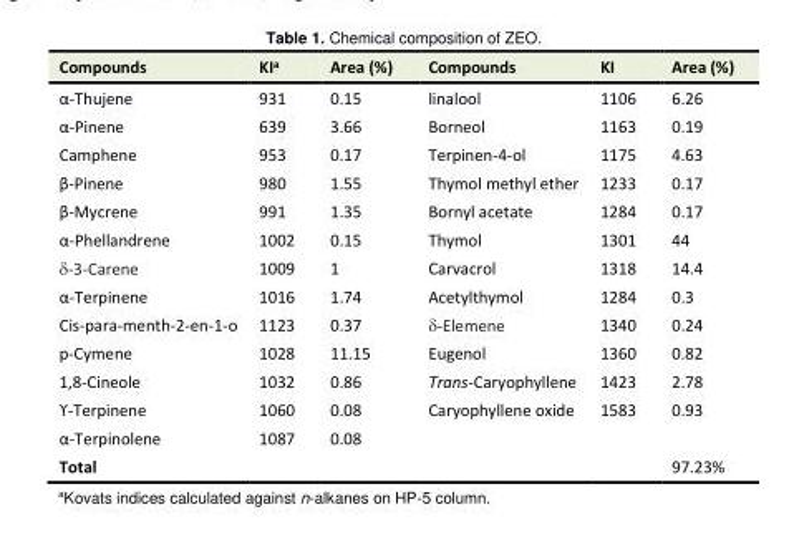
<table><tbody><tr><td>Compounds</td><td>KI<sup>a</sup></td><td>Area (%)</td><td>Compounds</td><td>KI</td><td>Area (%)</td></tr><tr><td>α-Thujene</td><td>931</td><td>0.15</td><td>linalool</td><td>1106</td><td>6.26</td></tr><tr><td>α-Pinene</td><td>639</td><td>3.66</td><td>Borneol</td><td>1163</td><td>0.19</td></tr><tr><td>Camphene</td><td>953</td><td>0.17</td><td>Terpinen-4-ol</td><td>1175</td><td>4.63</td></tr><tr><td>β-Pinene</td><td>980</td><td>1.55</td><td>Thymol methyl ether</td><td>1233</td><td>0.17</td></tr><tr><td>β-Mycrene</td><td>991</td><td>1.35</td><td>Bornyl acetate</td><td>1284</td><td>0.17</td></tr><tr><td>α-Phellandrene</td><td>1002</td><td>0.15</td><td>Thymol</td><td>1301</td><td>44</td></tr><tr><td>d-3-Carene</td><td>1009</td><td>1</td><td>Carvacrol</td><td>1318</td><td>14.4</td></tr><tr><td>α-Terpinene</td><td>1016</td><td>1.74</td><td>Acetylthymol</td><td>1284</td><td>0.3</td></tr><tr><td>Cis-para-menth-2-en-1-o</td><td>1123</td><td>0.37</td><td>d-Elemene</td><td>1340</td><td>0.24</td></tr><tr><td>p-Cymene</td><td>1028</td><td>11.15</td><td>Eugenol</td><td>1360</td><td>0.82</td></tr><tr><td>1,8-Cineole</td><td>1032</td><td>0.86</td><td>Trans-Caryophyllene</td><td>1423</td><td>2.78</td></tr><tr><td>ϒ-Terpinene</td><td>1060</td><td>0.08</td><td>Caryophyllene oxide</td><td>1583</td><td>0.93</td></tr><tr><td>α-Terpinolene</td><td>1087</td><td>0.08</td><td></td><td></td><td></td></tr><tr><td>Total</td><td></td><td></td><td></td><td></td><td>97.23%</td></tr></tbody></table>